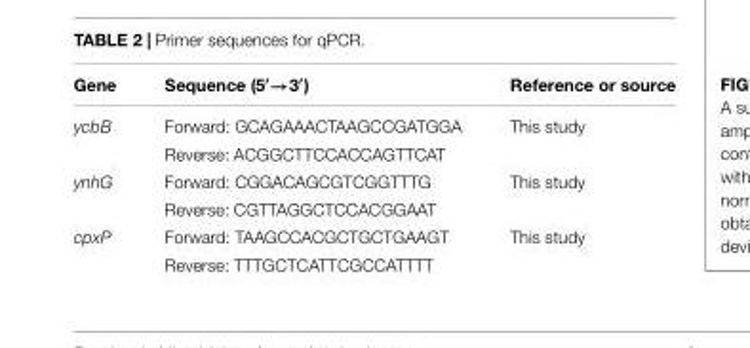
<table><thead><tr><td>Gene</td><td>Sequence (5′→3′)</td><td>Reference or source</td></tr></thead><tbody><tr><td rowspan="2">ycbB</td><td>Forward: GCAGAAACTAAGCCGATGGA</td><td>This study</td></tr><tr><td>Reverse: ACGGCTTCCACCAGTTCAT</td><td></td></tr><tr><td rowspan="2">ynhG</td><td>Forward: CGGACAGCGTCGGTTTG</td><td>This study</td></tr><tr><td>Reverse: CGTTAGGCTCCACGGAAT</td><td></td></tr><tr><td rowspan="2">cpxP</td><td>Forward: TAAGCCACGCTGCTGAAGT</td><td>This study</td></tr><tr><td>Reverse: TTTGCTCATTCGCCATTTT</td><td></td></tr></tbody></table>